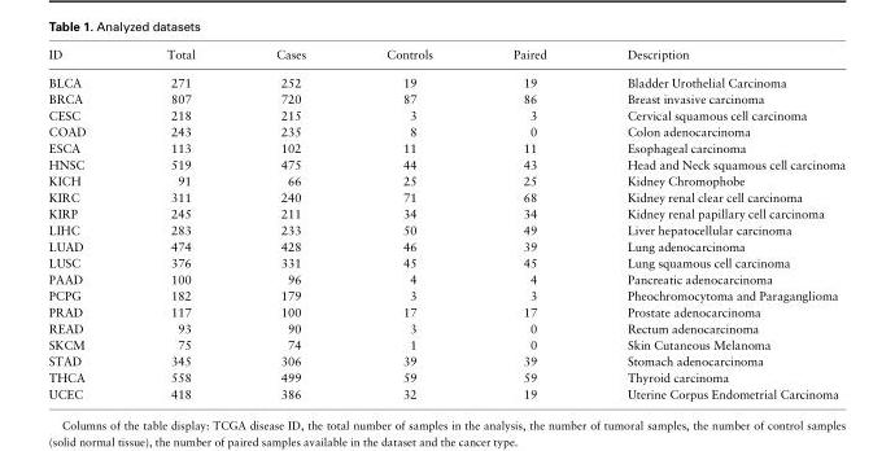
<table><thead><tr><td>ID</td><td>Total</td><td>Cases</td><td>Controls</td><td>Paired</td><td>Description</td></tr></thead><tbody><tr><td>BLCA</td><td>271</td><td>252</td><td>19</td><td>19</td><td>Bladder Urothelial Carcinoma</td></tr><tr><td>BRCA</td><td>807</td><td>720</td><td>87</td><td>86</td><td>Breast invasive carcinoma</td></tr><tr><td>CESC</td><td>218</td><td>215</td><td>3</td><td>3</td><td>Cervical squamous cell carcinoma</td></tr><tr><td>COAD</td><td>243</td><td>235</td><td>8</td><td>0</td><td>Colon adenocarcinoma</td></tr><tr><td>ESCA</td><td>113</td><td>102</td><td>11</td><td>11</td><td>Esophageal carcinoma</td></tr><tr><td>HNSC</td><td>519</td><td>475</td><td>44</td><td>43</td><td>Head and Neck squamous cell carcinoma</td></tr><tr><td>KICH</td><td>91</td><td>66</td><td>25</td><td>25</td><td>Kidney Chromophobe</td></tr><tr><td>KIRC</td><td>311</td><td>240</td><td>71</td><td>68</td><td>Kidney renal clear cell carcinoma</td></tr><tr><td>KIRP</td><td>245</td><td>211</td><td>34</td><td>34</td><td>Kidney renal papillary cell carcinoma</td></tr><tr><td>LIHC</td><td>283</td><td>233</td><td>50</td><td>49</td><td>Liver hepatocellular carcinoma</td></tr><tr><td>LUAD</td><td>474</td><td>428</td><td>46</td><td>39</td><td>Lung adenocarcinoma</td></tr><tr><td>LUSC</td><td>376</td><td>331</td><td>45</td><td>45</td><td>Lung squamous cell carcinoma</td></tr><tr><td>PAAD</td><td>100</td><td>96</td><td>4</td><td>4</td><td>Pancreatic adenocarcinoma</td></tr><tr><td>PCPG</td><td>182</td><td>179</td><td>3</td><td>3</td><td>Pheochromocytoma and Paraganglioma</td></tr><tr><td>PRAD</td><td>117</td><td>100</td><td>17</td><td>17</td><td>Prostate adenocarcinoma</td></tr><tr><td>READ</td><td>93</td><td>90</td><td>3</td><td>0</td><td>Rectum adenocarcinoma</td></tr><tr><td>SKCM</td><td>75</td><td>74</td><td>1</td><td>0</td><td>Skin Cutaneous Melanoma</td></tr><tr><td>STAD</td><td>345</td><td>306</td><td>39</td><td>39</td><td>Stomach adenocarcinoma</td></tr><tr><td>THCA</td><td>558</td><td>499</td><td>59</td><td>59</td><td>Thyroid carcinoma</td></tr><tr><td>UCEC</td><td>418</td><td>386</td><td>32</td><td>19</td><td>Uterine Corpus Endometrial Carcinoma</td></tr></tbody></table>